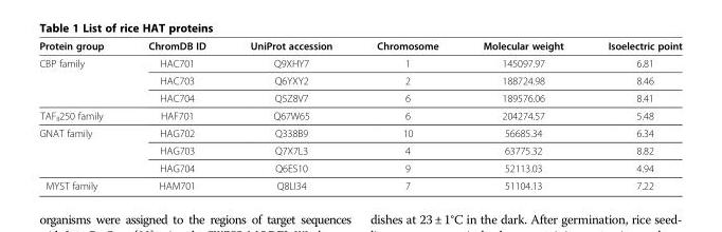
<table><thead><tr><td>Protein group</td><td>ChromDB ID</td><td>UniProt accession</td><td>Chromosome</td><td>Molecular weight</td><td>Isoelectric point</td></tr></thead><tbody><tr><td rowspan="3">CBP family</td><td>HAC701</td><td>Q9XHY7</td><td>1</td><td>145097.97</td><td>6.81</td></tr><tr><td>HAC703</td><td>Q6YXY2</td><td>2</td><td>188724.98</td><td>8.46</td></tr><tr><td>HAC704</td><td>Q5Z8V7</td><td>6</td><td>189576.06</td><td>8.41</td></tr><tr><td>TAF<sub>II</sub>250 family</td><td>HAF701</td><td>Q67W65</td><td>6</td><td>204274.57</td><td>5.48</td></tr><tr><td rowspan="3">GNAT family</td><td>HAG702</td><td>Q338B9</td><td>10</td><td>56685.34</td><td>6.34</td></tr><tr><td>HAG703</td><td>Q7X7L3</td><td>4</td><td>63775.32</td><td>8.82</td></tr><tr><td>HAG704</td><td>Q6ES10</td><td>9</td><td>52113.03</td><td>4.94</td></tr><tr><td>MYST family</td><td>HAM701</td><td>Q8LI34</td><td>7</td><td>51104.13</td><td>7.22</td></tr></tbody></table>